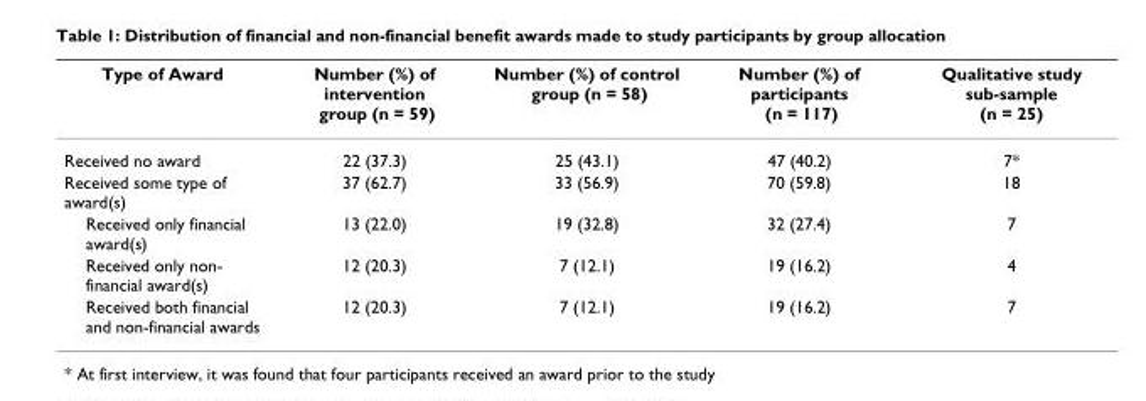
<table><thead><tr><td>Type of Award</td><td>Number (%) of intervention group (n = 59)</td><td>Number (%) of control group (n = 58)</td><td>Number (%) of participants (n = 117)</td><td>Qualitative study sub-sample (n = 25)</td></tr></thead><tbody><tr><td>Received no award</td><td>22 (37.3)</td><td>25 (43.1)</td><td>47 (40.2)</td><td>7*</td></tr><tr><td>Received some type of award(s)</td><td>37 (62.7)</td><td>33 (56.9)</td><td>70 (59.8)</td><td>18</td></tr><tr><td>Received only financial award(s)</td><td>13 (22.0)</td><td>19 (32.8)</td><td>32 (27.4)</td><td>7</td></tr><tr><td>Received only non- financial award(s)</td><td>12 (20.3)</td><td>7 (12.1)</td><td>19 (16.2)</td><td>4</td></tr><tr><td>Received both financial and non-financial awards</td><td>12 (20.3)</td><td>7 (12.1)</td><td>19 (16.2)</td><td>7</td></tr></tbody></table>